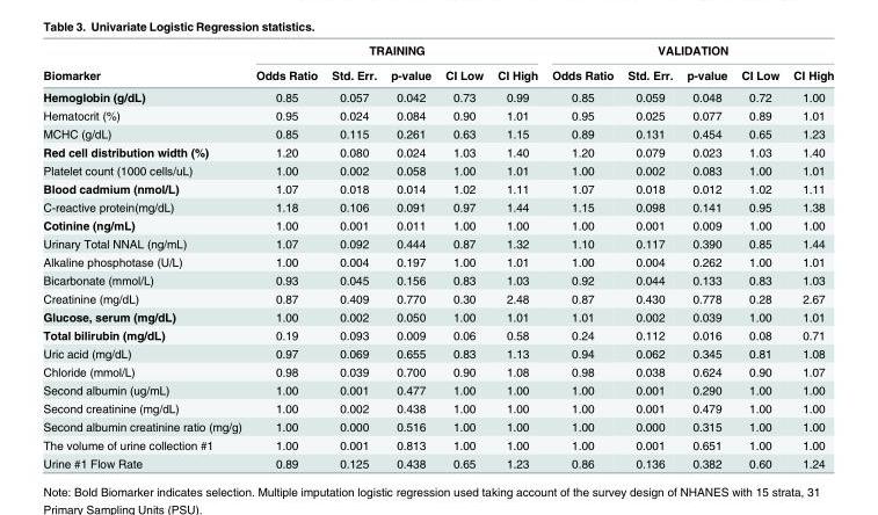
<table><thead><tr><td rowspan="2">Biomarker</td><td colspan="5">TRAINING</td><td colspan="5">VALIDATION</td></tr><tr><td>Odds Ratio</td><td>Std. Err.</td><td>p-value</td><td>CI Low</td><td>CI High</td><td>Odds Ratio</td><td>Std. Err.</td><td>p-value</td><td>CI Low</td><td>CI High</td></tr></thead><tbody><tr><td>Hemoglobin (g/dL)</td><td>0.85</td><td>0.057</td><td>0.042</td><td>0.73</td><td>0.99</td><td>0.85</td><td>0.059</td><td>0.048</td><td>0.72</td><td>1.00</td></tr><tr><td>Hematocrit (%)</td><td>0.95</td><td>0.024</td><td>0.084</td><td>0.90</td><td>1.01</td><td>0.95</td><td>0.025</td><td>0.077</td><td>0.89</td><td>1.01</td></tr><tr><td>MCHC (g/dL)</td><td>0.85</td><td>0.115</td><td>0.261</td><td>0.63</td><td>1.15</td><td>0.89</td><td>0.131</td><td>0.454</td><td>0.65</td><td>1.23</td></tr><tr><td>Red cell distribution width (%)</td><td>1.20</td><td>0.080</td><td>0.024</td><td>1.03</td><td>1.40</td><td>1.20</td><td>0.079</td><td>0.023</td><td>1.03</td><td>1.40</td></tr><tr><td>Platelet count (1000 cells/uL)</td><td>1.00</td><td>0.002</td><td>0.058</td><td>1.00</td><td>1.01</td><td>1.00</td><td>0.002</td><td>0.083</td><td>1.00</td><td>1.01</td></tr><tr><td>Blood cadmium (nmol/L)</td><td>1.07</td><td>0.018</td><td>0.014</td><td>1.02</td><td>1.11</td><td>1.07</td><td>0.018</td><td>0.012</td><td>1.02</td><td>1.11</td></tr><tr><td>C-reactive protein(mg/dL)</td><td>1.18</td><td>0.106</td><td>0.091</td><td>0.97</td><td>1.44</td><td>1.15</td><td>0.098</td><td>0.141</td><td>0.95</td><td>1.38</td></tr><tr><td>Cotinine (ng/mL)</td><td>1.00</td><td>0.001</td><td>0.011</td><td>1.00</td><td>1.00</td><td>1.00</td><td>0.001</td><td>0.009</td><td>1.00</td><td>1.00</td></tr><tr><td>Urinary Total NNAL (ng/mL)</td><td>1.07</td><td>0.092</td><td>0.444</td><td>0.87</td><td>1.32</td><td>1.10</td><td>0.117</td><td>0.390</td><td>0.85</td><td>1.44</td></tr><tr><td>Alkaline phosphotase (U/L)</td><td>1.00</td><td>0.004</td><td>0.197</td><td>1.00</td><td>1.01</td><td>1.00</td><td>0.004</td><td>0.262</td><td>1.00</td><td>1.01</td></tr><tr><td>Bicarbonate (mmol/L)</td><td>0.93</td><td>0.045</td><td>0.156</td><td>0.83</td><td>1.03</td><td>0.92</td><td>0.044</td><td>0.133</td><td>0.83</td><td>1.03</td></tr><tr><td>Creatinine (mg/dL)</td><td>0.87</td><td>0.409</td><td>0.770</td><td>0.30</td><td>2.48</td><td>0.87</td><td>0.430</td><td>0.778</td><td>0.28</td><td>2.67</td></tr><tr><td>Glucose, serum (mg/dL)</td><td>1.00</td><td>0.002</td><td>0.050</td><td>1.00</td><td>1.01</td><td>1.01</td><td>0.002</td><td>0.039</td><td>1.00</td><td>1.01</td></tr><tr><td>Total bilirubin (mg/dL)</td><td>0.19</td><td>0.093</td><td>0.009</td><td>0.06</td><td>0.58</td><td>0.24</td><td>0.112</td><td>0.016</td><td>0.08</td><td>0.71</td></tr><tr><td>Uric acid (mg/dL)</td><td>0.97</td><td>0.069</td><td>0.655</td><td>0.83</td><td>1.13</td><td>0.94</td><td>0.062</td><td>0.345</td><td>0.81</td><td>1.08</td></tr><tr><td>Chloride (mmol/L)</td><td>0.98</td><td>0.039</td><td>0.700</td><td>0.90</td><td>1.08</td><td>0.98</td><td>0.038</td><td>0.624</td><td>0.90</td><td>1.07</td></tr><tr><td>Second albumin (ug/mL)</td><td>1.00</td><td>0.001</td><td>0.477</td><td>1.00</td><td>1.00</td><td>1.00</td><td>0.001</td><td>0.290</td><td>1.00</td><td>1.00</td></tr><tr><td>Second creatinine (mg/dL)</td><td>1.00</td><td>0.002</td><td>0.438</td><td>1.00</td><td>1.00</td><td>1.00</td><td>0.001</td><td>0.479</td><td>1.00</td><td>1.00</td></tr><tr><td>Second albumin creatinine ratio (mg/g)</td><td>1.00</td><td>0.000</td><td>0.516</td><td>1.00</td><td>1.00</td><td>1.00</td><td>0.000</td><td>0.315</td><td>1.00</td><td>1.00</td></tr><tr><td>The volume of urine collection #1</td><td>1.00</td><td>0.001</td><td>0.813</td><td>1.00</td><td>1.00</td><td>1.00</td><td>0.001</td><td>0.651</td><td>1.00</td><td>1.00</td></tr><tr><td>Urine #1 Flow Rate</td><td>0.89</td><td>0.125</td><td>0.438</td><td>0.65</td><td>1.23</td><td>0.86</td><td>0.136</td><td>0.382</td><td>0.60</td><td>1.24</td></tr></tbody></table>